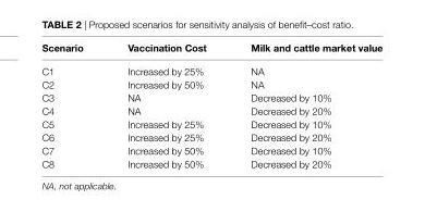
<table><thead><tr><td>scenario</td><td>Vaccination cost</td><td>Milk and cattle market value</td></tr></thead><tbody><tr><td>C1</td><td>Increased by 25%</td><td>NA</td></tr><tr><td>C2</td><td>Increased by 50%</td><td>NA</td></tr><tr><td>C3</td><td>NA</td><td>Decreased by 10%</td></tr><tr><td>C4</td><td>NA</td><td>Decreased by 20%</td></tr><tr><td>C5</td><td>Increased by 25%</td><td>Decreased by 10%</td></tr><tr><td>C6</td><td>Increased by 25%</td><td>Decreased by 20%</td></tr><tr><td>C7</td><td>Increased by 50%</td><td>Decreased by 10%</td></tr><tr><td>C8</td><td>Increased by 50%</td><td>Decreased by 20%</td></tr></tbody></table>